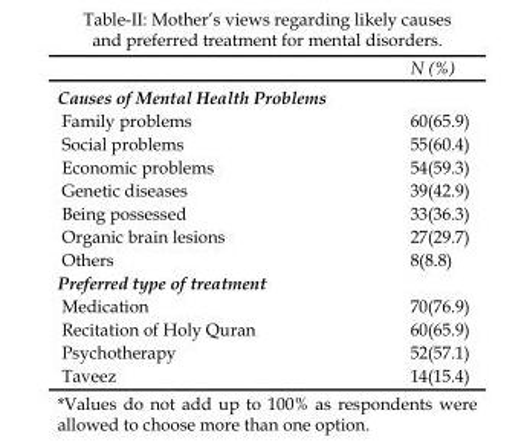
<table><thead><tr><td></td><td>N (%)</td></tr></thead><tbody><tr><td colspan="2">Causes of Mental Health Problems</td></tr><tr><td>Family problems</td><td>60(65.9)</td></tr><tr><td>Social problems</td><td>55(60.4)</td></tr><tr><td>Economic problems</td><td>54(59.3)</td></tr><tr><td>Genetic diseases</td><td>39(42.9)</td></tr><tr><td>Being possessed</td><td>33(36.3)</td></tr><tr><td>Organic brain lesions</td><td>27(29.7)</td></tr><tr><td>Others</td><td>8(8.8)</td></tr><tr><td colspan="2">Preferred type of treatment</td></tr><tr><td>Medication</td><td>70(76.9)</td></tr><tr><td>Recitation of Holy Quran</td><td>60(65.9)</td></tr><tr><td>Psychotherapy</td><td>52(57.1)</td></tr><tr><td>Taveez</td><td>14(15.4)</td></tr></tbody></table>